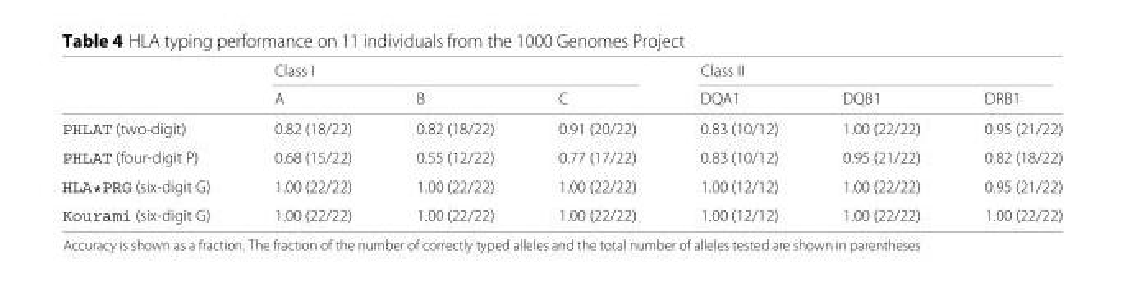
<table><thead><tr><td rowspan="2"></td><td colspan="3">Class I</td><td colspan="3">Class II</td></tr><tr><td>A</td><td>B</td><td>C</td><td>DQA1</td><td>DQB1</td><td>DRB1</td></tr></thead><tbody><tr><td>PHLAT (two-digit)</td><td>0.82 (18/22)</td><td>0.82 (18/22)</td><td>0.91 (20/22)</td><td>0.83 (10/12)</td><td>1.00 (22/22)</td><td>0.95 (21/22)</td></tr><tr><td>PHLAT (four-digit P)</td><td>0.68 (15/22)</td><td>0.55 (12/22)</td><td>0.77 (17/22)</td><td>0.83 (10/12)</td><td>0.95 (21/22)</td><td>0.82 (18/22)</td></tr><tr><td>HLA*PRG (six-digit G)</td><td>1.00 (22/22)</td><td>1.00 (22/22)</td><td>1.00 (22/22)</td><td>1.00 (12/12)</td><td>1.00 (22/22)</td><td>0.95 (21/22)</td></tr><tr><td>Kourami (six-digit G)</td><td>1.00 (22/22)</td><td>1.00 (22/22)</td><td>1.00 (22/22)</td><td>1.00 (12/12)</td><td>1.00 (22/22)</td><td>1.00 (22/22)</td></tr></tbody></table>